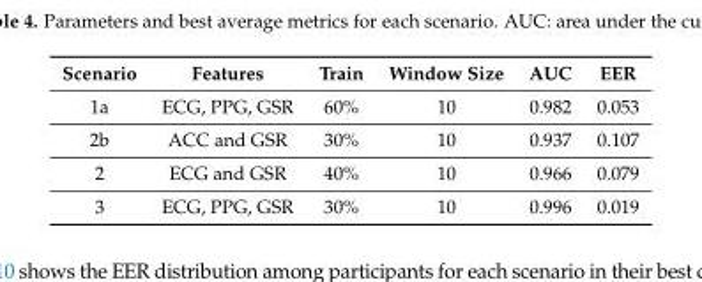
<table><thead><tr><td>Scenario</td><td>Features</td><td>Train</td><td>Window Size</td><td>AUC</td><td>EER</td></tr></thead><tbody><tr><td>1a</td><td>ECG, PPG, GSR</td><td>60%</td><td>10</td><td>0.982</td><td>0.053</td></tr><tr><td>2b</td><td>ACC and GSR</td><td>30%</td><td>10</td><td>0.937</td><td>0.107</td></tr><tr><td>2</td><td>ECG and GSR</td><td>40%</td><td>10</td><td>0.966</td><td>0.079</td></tr><tr><td>3</td><td>ECG, PPG, GSR</td><td>30%</td><td>10</td><td>0.996</td><td>0.019</td></tr></tbody></table>